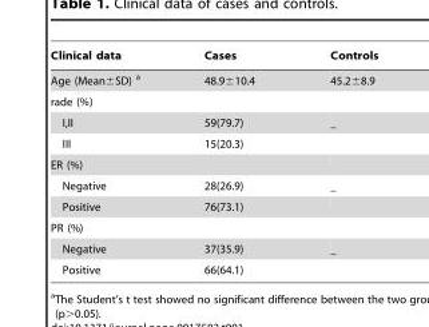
<table><thead><tr><td>Clinical data</td><td>Cases</td><td>Controls</td></tr></thead><tbody><tr><td>Age (Mean±SD) a</td><td>48.9±10.4</td><td>45.2±8.9</td></tr><tr><td colspan="3">rade (%)</td></tr><tr><td>I,II</td><td>59(79.7)</td><td>_</td></tr><tr><td>III</td><td>15(20.3)</td><td></td></tr><tr><td colspan="3">ER (%)</td></tr><tr><td>Negative</td><td>28(26.9)</td><td>_</td></tr><tr><td>Positive</td><td>76(73.1)</td><td></td></tr><tr><td colspan="3">PR (%)</td></tr><tr><td>Negative</td><td>37(35.9)</td><td>_</td></tr><tr><td>Positive</td><td>66(64.1)</td><td></td></tr></tbody></table>